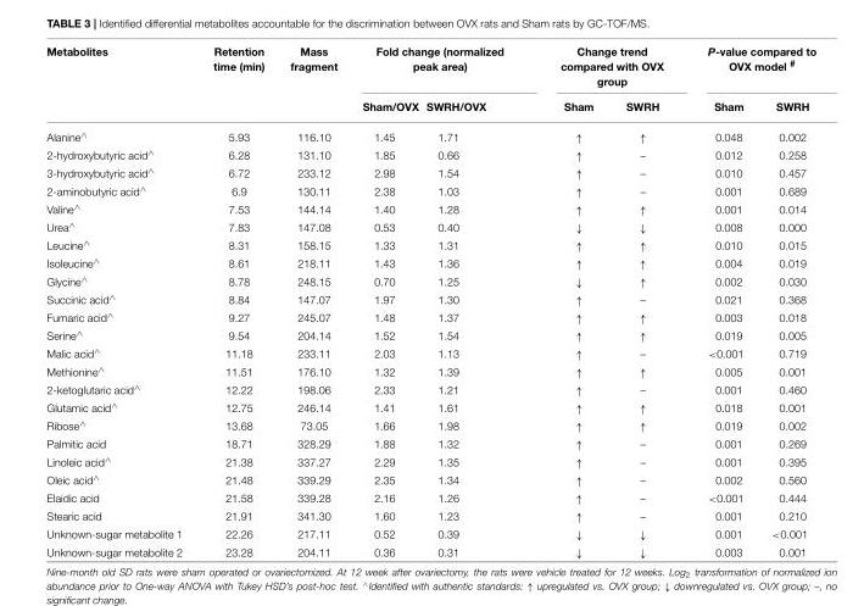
<table><thead><tr><td rowspan="2">Metabolites</td><td rowspan="2">Retention time (min)</td><td rowspan="2">Mass fragment</td><td colspan="2">Fold change (normalized peak area)</td><td colspan="2">Change trend compared with OVX group</td><td colspan="2">P-value compared to OVX model <sup>#</sup></td></tr><tr><td>Sham/OVX</td><td>SWRH/OVX</td><td>Sham</td><td>SWRH</td><td>Sham</td><td>SWRH</td></tr></thead><tbody><tr><td>Alanine<sup>∧</sup></td><td>5.93</td><td>116.10</td><td>1.45</td><td>1.71</td><td>↑</td><td>↑</td><td>0.048</td><td>0.002</td></tr><tr><td>2-hydroxybutyric acid<sup>∧</sup></td><td>6.28</td><td>131.10</td><td>1.85</td><td>0.66</td><td>↑</td><td>–</td><td>0.012</td><td>0.258</td></tr><tr><td>3-hydroxybutyric acid<sup>∧</sup></td><td>6.72</td><td>233.12</td><td>2.98</td><td>1.54</td><td>↑</td><td>–</td><td>0.010</td><td>0.457</td></tr><tr><td>2-aminobutyric acid<sup>∧</sup></td><td>6.9</td><td>130.11</td><td>2.38</td><td>1.03</td><td>↑</td><td>–</td><td>0.001</td><td>0.689</td></tr><tr><td>Valine<sup>∧</sup></td><td>7.53</td><td>144.14</td><td>1.40</td><td>1.28</td><td>↑</td><td>↑</td><td>0.001</td><td>0.014</td></tr><tr><td>Urea<sup>∧</sup></td><td>7.83</td><td>147.08</td><td>0.53</td><td>0.40</td><td>↓</td><td>↓</td><td>0.008</td><td>0.000</td></tr><tr><td>Leucine<sup>∧</sup></td><td>8.31</td><td>158.15</td><td>1.33</td><td>1.31</td><td>↑</td><td>↑</td><td>0.010</td><td>0.015</td></tr><tr><td>Isoleucine<sup>∧</sup></td><td>8.61</td><td>218.11</td><td>1.43</td><td>1.36</td><td>↑</td><td>↑</td><td>0.004</td><td>0.019</td></tr><tr><td>Glycine<sup>∧</sup></td><td>8.78</td><td>248.15</td><td>0.70</td><td>1.25</td><td>↓</td><td>↑</td><td>0.002</td><td>0.030</td></tr><tr><td>Succinic acid<sup>∧</sup></td><td>8.84</td><td>147.07</td><td>1.97</td><td>1.30</td><td>↑</td><td>–</td><td>0.021</td><td>0.368</td></tr><tr><td>Fumaric acid<sup>∧</sup></td><td>9.27</td><td>245.07</td><td>1.48</td><td>1.37</td><td>↑</td><td>↑</td><td>0.003</td><td>0.018</td></tr><tr><td>Serine<sup>∧</sup></td><td>9.54</td><td>204.14</td><td>1.52</td><td>1.54</td><td>↑</td><td>↑</td><td>0.019</td><td>0.005</td></tr><tr><td>Malic acid<sup>∧</sup></td><td>11.18</td><td>233.11</td><td>2.03</td><td>1.13</td><td>↑</td><td>–</td><td>&lt;0.001</td><td>0.719</td></tr><tr><td>Methionine<sup>∧</sup></td><td>11.51</td><td>176.10</td><td>1.32</td><td>1.39</td><td>↑</td><td>↑</td><td>0.005</td><td>0.001</td></tr><tr><td>2-ketoglutaric acid<sup>∧</sup></td><td>12.22</td><td>198.06</td><td>2.33</td><td>1.21</td><td>↑</td><td>–</td><td>0.001</td><td>0.460</td></tr><tr><td>Glutamic acid<sup>∧</sup></td><td>12.75</td><td>246.14</td><td>1.41</td><td>1.61</td><td>↑</td><td>↑</td><td>0.018</td><td>0.001</td></tr><tr><td>Ribose<sup>∧</sup></td><td>13.68</td><td>73.05</td><td>1.66</td><td>1.98</td><td>↑</td><td>↑</td><td>0.019</td><td>0.002</td></tr><tr><td>Palmitic acid</td><td>18.71</td><td>328.29</td><td>1.88</td><td>1.32</td><td>↑</td><td>–</td><td>0.001</td><td>0.269</td></tr><tr><td>Linoleic acid<sup>∧</sup></td><td>21.38</td><td>337.27</td><td>2.29</td><td>1.35</td><td>↑</td><td>–</td><td>0.001</td><td>0.395</td></tr><tr><td>Oleic acid<sup>∧</sup></td><td>21.48</td><td>339.29</td><td>2.35</td><td>1.34</td><td>↑</td><td>–</td><td>0.002</td><td>0.560</td></tr><tr><td>Elaidic acid</td><td>21.58</td><td>339.28</td><td>2.16</td><td>1.26</td><td>↑</td><td>–</td><td>&lt;0.001</td><td>0.444</td></tr><tr><td>Stearic acid</td><td>21.91</td><td>341.30</td><td>1.60</td><td>1.23</td><td>↑</td><td>–</td><td>0.001</td><td>0.210</td></tr><tr><td>Unknown-sugar metabolite 1</td><td>22.26</td><td>217.11</td><td>0.52</td><td>0.39</td><td>↓</td><td>↓</td><td>0.001</td><td>&lt;0.001</td></tr><tr><td>Unknown-sugar metabolite 2</td><td>23.28</td><td>204.11</td><td>0.36</td><td>0.31</td><td>↓</td><td>↓</td><td>0.003</td><td>0.001</td></tr></tbody></table>